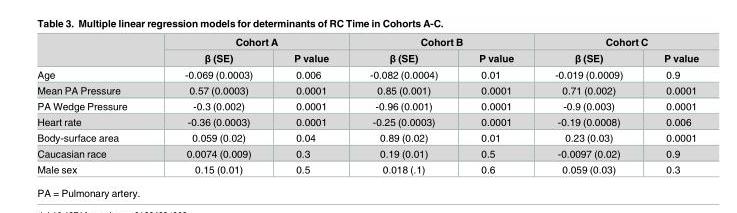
<table><thead><tr><td rowspan="2"></td><td colspan="2">Cohort A</td><td colspan="2">Cohort B</td><td colspan="2">Cohort C</td></tr><tr><td>β (SE)</td><td>P value</td><td>β (SE)</td><td>P value</td><td>β (SE)</td><td>P value</td></tr></thead><tbody><tr><td>Age</td><td>-0.069 (0.0003)</td><td>0.006</td><td>-0.082 (0.0004)</td><td>0.01</td><td>-0.019 (0.0009)</td><td>0.9</td></tr><tr><td>Mean PA Pressure</td><td>0.57 (0.0003)</td><td>0.0001</td><td>0.85 (0.001)</td><td>0.0001</td><td>0.71 (0.002)</td><td>0.0001</td></tr><tr><td>PA Wedge Pressure</td><td>-0.3 (0.002)</td><td>0.0001</td><td>-0.96 (0.001)</td><td>0.0001</td><td>-0.9 (0.003)</td><td>0.0001</td></tr><tr><td>Heart rate</td><td>-0.36 (0.0003)</td><td>0.0001</td><td>-0.25 (0.0003)</td><td>0.0001</td><td>-0.19 (0.0008)</td><td>0.006</td></tr><tr><td>Body-surface area</td><td>0.059 (0.02)</td><td>0.04</td><td>0.89 (0.02)</td><td>0.01</td><td>0.23 (0.03)</td><td>0.0001</td></tr><tr><td>Caucasian race</td><td>0.0074 (0.009)</td><td>0.3</td><td>0.19 (0.01)</td><td>0.5</td><td>-0.0097 (0.02)</td><td>0.9</td></tr><tr><td>Male sex</td><td>0.15 (0.01)</td><td>0.5</td><td>0.018 (.1)</td><td>0.6</td><td>0.059 (0.03)</td><td>0.3</td></tr></tbody></table>